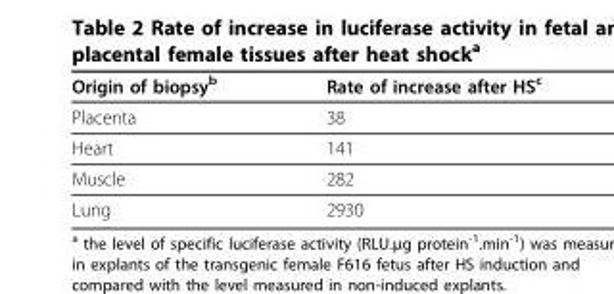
<table><thead><tr><td>Origin of biopsy<sup>b</sup></td><td>Rate of increase after HS<sup>c</sup></td></tr></thead><tbody><tr><td>Placenta</td><td>38</td></tr><tr><td>Heart</td><td>141</td></tr><tr><td>Muscle</td><td>282</td></tr><tr><td>Lung</td><td>2930</td></tr></tbody></table>